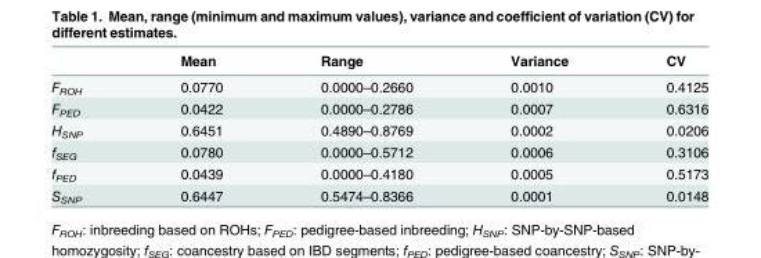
<table><thead><tr><td></td><td>Mean</td><td>Range</td><td>Variance</td><td>CV</td></tr></thead><tbody><tr><td>F<sub>ROH</sub></td><td>0.0770</td><td>0.0000–0.2660</td><td>0.0010</td><td>0.4125</td></tr><tr><td>F<sub>PED</sub></td><td>0.0422</td><td>0.0000–0.2786</td><td>0.0007</td><td>0.6316</td></tr><tr><td>H<sub>SNP</sub></td><td>0.6451</td><td>0.4890–0.8769</td><td>0.0002</td><td>0.0206</td></tr><tr><td>f<sub>SEG</sub></td><td>0.0780</td><td>0.0000–0.5712</td><td>0.0006</td><td>0.3106</td></tr><tr><td>f<sub>PED</sub></td><td>0.0439</td><td>0.0000–0.4180</td><td>0.0005</td><td>0.5173</td></tr><tr><td>S<sub>SNP</sub></td><td>0.6447</td><td>0.5474–0.8366</td><td>0.0001</td><td>0.0148</td></tr></tbody></table>